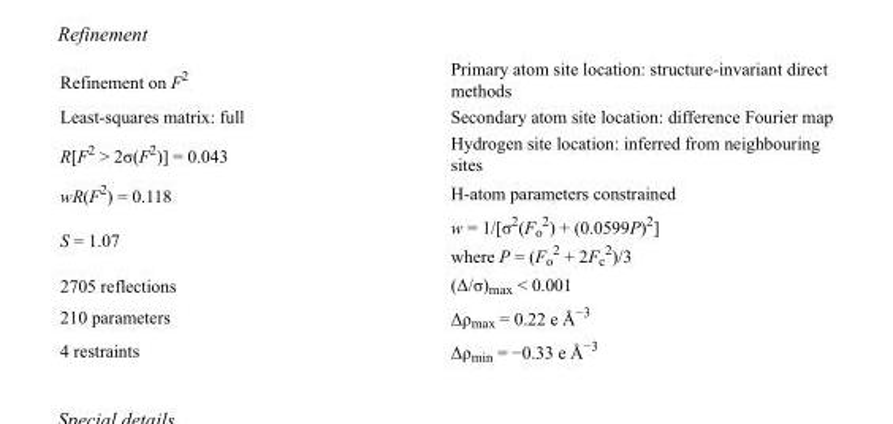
<table><tbody><tr><td>Refinement on F<sup>2</sup></td><td>Primary atom site location: structure-invariant direct methods</td></tr><tr><td>Least-squares matrix: full</td><td>Secondary atom site location: difference Fourier map</td></tr><tr><td>R[F<sup>2</sup> &gt; 2σ(F<sup>2</sup>)] = 0.043</td><td>Hydrogen site location: inferred from neighbouring sites</td></tr><tr><td>wR(F<sup>2</sup>) = 0.118</td><td>H-atom parameters constrained</td></tr><tr><td>S = 1.07</td><td>w = 1/[σ<sup>2</sup>(F<sub>o</sub> <sup>2</sup>) + (0.0599P)<sup>2</sup>] where P = (F<sub>o</sub> <sup>2</sup> + 2F<sub>c</sub> <sup>2</sup>)/3</td></tr><tr><td>2705 reflections</td><td>(Δ/σ)<sub>max</sub> &lt; 0.001</td></tr><tr><td>210 parameters</td><td>Δρ<sub>max</sub> = 0.22 e Å<sup>−3</sup></td></tr><tr><td>4 restraints</td><td>Δρ<sub>min</sub> = −0.33 e Å<sup>−3</sup></td></tr></tbody></table>